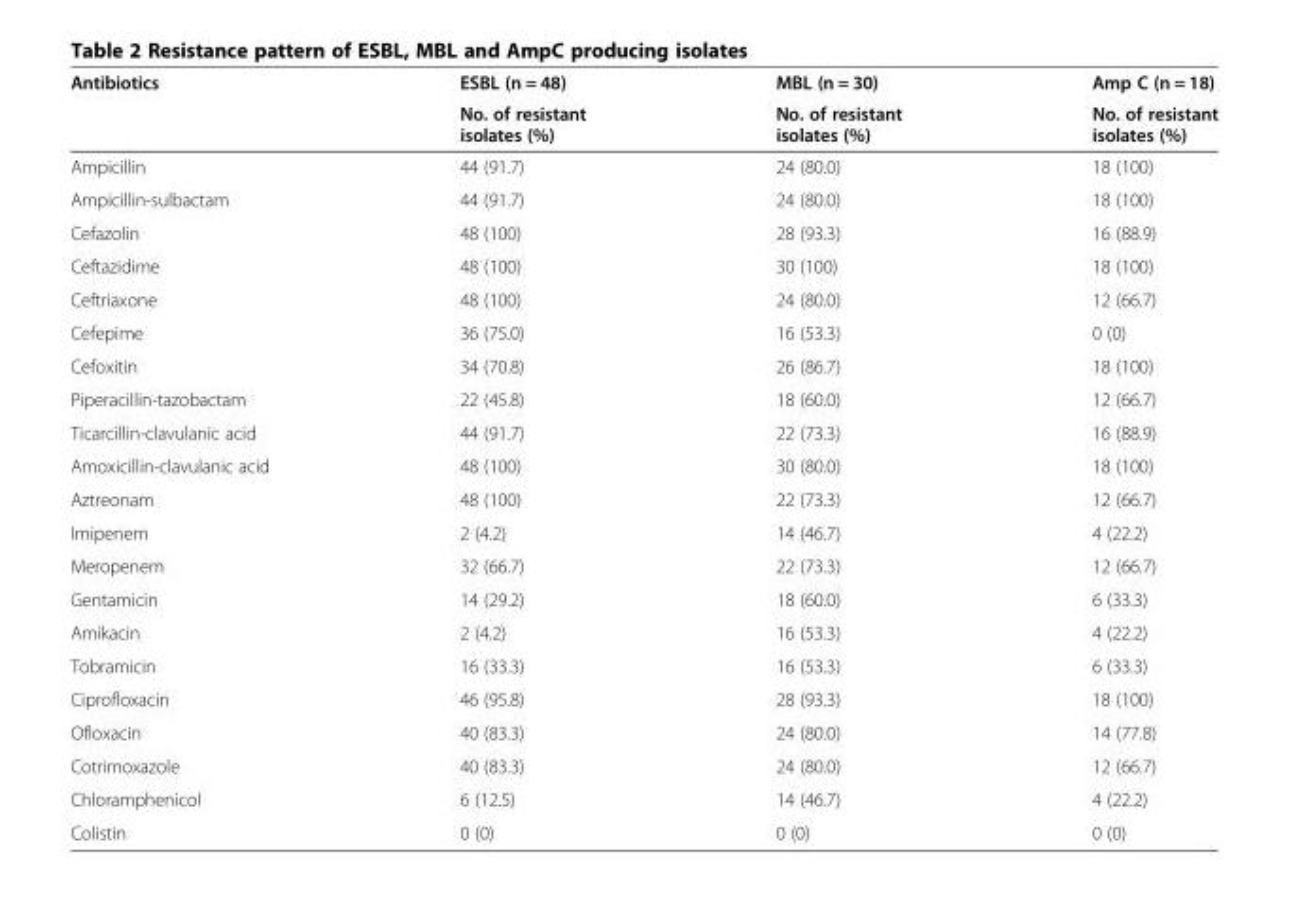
<table><thead><tr><td rowspan="2">Antibiotics</td><td rowspan="2">ESBL (n = 48) No. of resistant isolates (%)</td><td rowspan="2">MBL (n = 30) No. of resistant isolates (%)</td><td rowspan="2">Amp C (n = 18) No. of resistant isolates (%)</td></tr><tr></tr></thead><tbody><tr><td>Ampicillin</td><td>44 (91.7)</td><td>24 (80.0)</td><td>18 (100)</td></tr><tr><td>Ampicillin-sulbactam</td><td>44 (91.7)</td><td>24 (80.0)</td><td>18 (100)</td></tr><tr><td>Cefazolin</td><td>48 (100)</td><td>28 (93.3)</td><td>16 (88.9)</td></tr><tr><td>Ceftazidime</td><td>48 (100)</td><td>30 (100)</td><td>18 (100)</td></tr><tr><td>Ceftriaxone</td><td>48 (100)</td><td>24 (80.0)</td><td>12 (66.7)</td></tr><tr><td>Cefepime</td><td>36 (75.0)</td><td>16 (53.3)</td><td>0 (0)</td></tr><tr><td>Cefoxitin</td><td>34 (70.8)</td><td>26 (86.7)</td><td>18 (100)</td></tr><tr><td>Piperacillin-tazobactam</td><td>22 (45.8)</td><td>18 (60.0)</td><td>12 (66.7)</td></tr><tr><td>Ticarcillin-clavulanic acid</td><td>44 (91.7)</td><td>22 (73.3)</td><td>16 (88.9)</td></tr><tr><td>Amoxicillin-clavulanic acid</td><td>48 (100)</td><td>30 (80.0)</td><td>18 (100)</td></tr><tr><td>Aztreonam</td><td>48 (100)</td><td>22 (73.3)</td><td>12 (66.7)</td></tr><tr><td>Imipenem</td><td>2 (4.2)</td><td>14 (46.7)</td><td>4 (22.2)</td></tr><tr><td>Meropenem</td><td>32 (66.7)</td><td>22 (73.3)</td><td>12 (66.7)</td></tr><tr><td>Gentamicin</td><td>14 (29.2)</td><td>18 (60.0)</td><td>6 (33.3)</td></tr><tr><td>Amikacin</td><td>2 (4.2)</td><td>16 (53.3)</td><td>4 (22.2)</td></tr><tr><td>Tobramicin</td><td>16 (33.3)</td><td>16 (53.3)</td><td>6 (33.3)</td></tr><tr><td>Ciprofloxacin</td><td>46 (95.8)</td><td>28 (93.3)</td><td>18 (100)</td></tr><tr><td>Ofloxacin</td><td>40 (83.3)</td><td>24 (80.0)</td><td>14 (77.8)</td></tr><tr><td>Cotrimoxazole</td><td>40 (83.3)</td><td>24 (80.0)</td><td>12 (66.7)</td></tr><tr><td>Chloramphenicol</td><td>6 (12.5)</td><td>14 (46.7)</td><td>4 (22.2)</td></tr><tr><td>Colistin</td><td>0 (0)</td><td>0 (0)</td><td>0 (0)</td></tr></tbody></table>